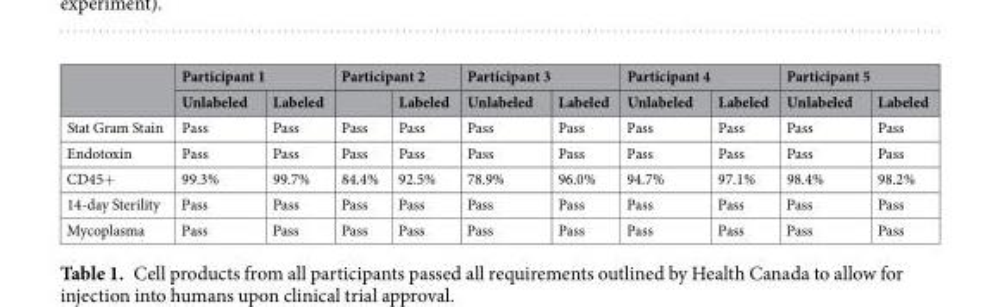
<table><thead><tr><td rowspan="2"></td><td colspan="2">Participant 1</td><td colspan="2">Participant 2</td><td colspan="2">Participant 3</td><td colspan="2">Participant 4</td><td colspan="2">Participant 5</td></tr><tr><td>Unlabeled</td><td>Labeled</td><td></td><td>Labeled</td><td>Unlabeled</td><td>Labeled</td><td>Unlabeled</td><td>Labeled</td><td>Unlabeled</td><td>Labeled</td></tr></thead><tbody><tr><td>Stat Gram Stain</td><td>Pass</td><td>Pass</td><td>Pass</td><td>Pass</td><td>Pass</td><td>Pass</td><td>Pass</td><td>Pass</td><td>Pass</td><td>Pass</td></tr><tr><td>Endotoxin</td><td>Pass</td><td>Pass</td><td>Pass</td><td>Pass</td><td>Pass</td><td>Pass</td><td>Pass</td><td>Pass</td><td>Pass</td><td>Pass</td></tr><tr><td>CD45+</td><td>99.3%</td><td>99.7%</td><td>84.4%</td><td>92.5%</td><td>78.9%</td><td>96.0%</td><td>94.7%</td><td>97.1%</td><td>98.4%</td><td>98.2%</td></tr><tr><td>14-day Sterility</td><td>Pass</td><td>Pass</td><td>Pass</td><td>Pass</td><td>Pass</td><td>Pass</td><td>Pass</td><td>Pass</td><td>Pass</td><td>Pass</td></tr><tr><td>Mycoplasma</td><td>Pass</td><td>Pass</td><td>Pass</td><td>Pass</td><td>Pass</td><td>Pass</td><td>Pass</td><td>Pass</td><td>Pass</td><td>Pass</td></tr></tbody></table>